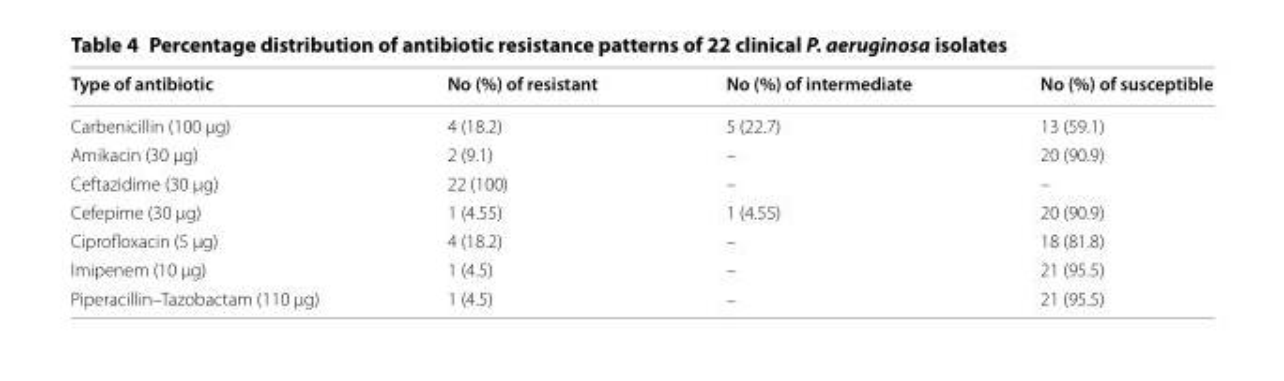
<table><thead><tr><td>Type of antibiotic</td><td>No (%) of resistant</td><td>No (%) of intermediate</td><td>No (%) of susceptible</td></tr></thead><tbody><tr><td>Carbenicillin (100 µg)</td><td>4 (18.2)</td><td>5 (22.7)</td><td>13 (59.1)</td></tr><tr><td>Amikacin (30 µg)</td><td>2 (9.1)</td><td>–</td><td>20 (90.9)</td></tr><tr><td>Ceftazidime (30 µg)</td><td>22 (100)</td><td>–</td><td>–</td></tr><tr><td>Cefepime (30 µg)</td><td>1 (4.55)</td><td>1 (4.55)</td><td>20 (90.9)</td></tr><tr><td>Ciprofloxacin (5 µg)</td><td>4 (18.2)</td><td>–</td><td>18 (81.8)</td></tr><tr><td>Imipenem (10 µg)</td><td>1 (4.5)</td><td>–</td><td>21 (95.5)</td></tr><tr><td>Piperacillin–Tazobactam (110 µg)</td><td>1 (4.5)</td><td>–</td><td>21 (95.5)</td></tr></tbody></table>